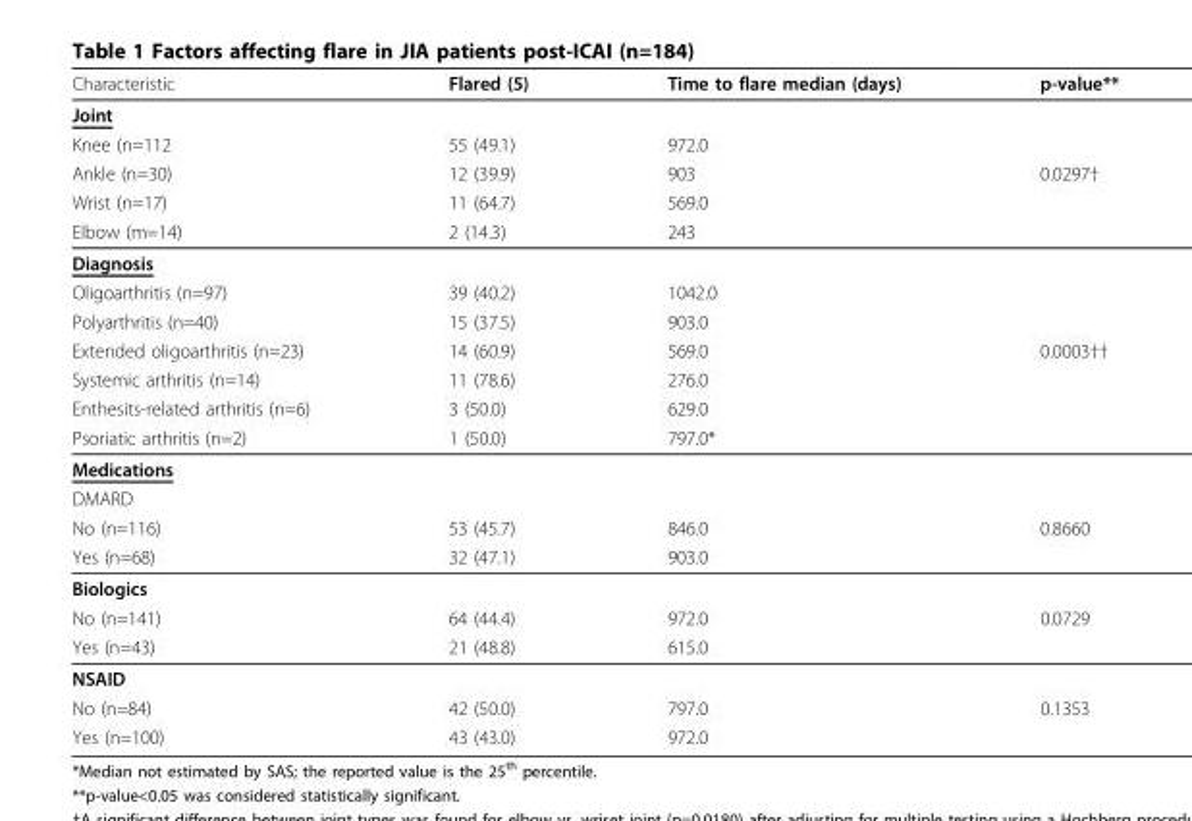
<table><thead><tr><td>Characteristic</td><td>Flared (5)</td><td>Time to flare median (days)</td><td>p-value**</td></tr></thead><tbody><tr><td colspan="4">Joint</td></tr><tr><td>Knee (n=112</td><td>55 (49.1)</td><td>972.0</td><td></td></tr><tr><td>Ankle (n=30)</td><td>12 (39.9)</td><td>903</td><td>0.0297†</td></tr><tr><td>Wrist (n=17)</td><td>11 (64.7)</td><td>569.0</td><td></td></tr><tr><td>Elbow (m=14)</td><td>2 (14.3)</td><td>243</td><td></td></tr><tr><td colspan="4">Diagnosis</td></tr><tr><td>Oligoarthritis (n=97)</td><td>39 (40.2)</td><td>1042.0</td><td></td></tr><tr><td>Polyarthritis (n=40)</td><td>15 (37.5)</td><td>903.0</td><td></td></tr><tr><td>Extended oligoarthritis (n=23)</td><td>14 (60.9)</td><td>569.0</td><td>0.0003††</td></tr><tr><td>Systemic arthritis (n=14)</td><td>11 (78.6)</td><td>276.0</td><td></td></tr><tr><td>Enthesits-related arthritis (n=6)</td><td>3 (50.0)</td><td>629.0</td><td></td></tr><tr><td>Psoriatic arthritis (n=2)</td><td>1 (50.0)</td><td>797.0*</td><td></td></tr><tr><td colspan="4">Medications</td></tr><tr><td colspan="4">DMARD</td></tr><tr><td>No (n=116)</td><td>53 (45.7)</td><td>846.0</td><td>0.8660</td></tr><tr><td>Yes (n=68)</td><td>32 (47.1)</td><td>903.0</td><td></td></tr><tr><td colspan="4">Biologics</td></tr><tr><td>No (n=141)</td><td>64 (44.4)</td><td>972.0</td><td>0.0729</td></tr><tr><td>Yes (n=43)</td><td>21 (48.8)</td><td>615.0</td><td></td></tr><tr><td colspan="4">NSAID</td></tr><tr><td>No (n=84)</td><td>42 (50.0)</td><td>797.0</td><td>0.1353</td></tr><tr><td>Yes (n=100)</td><td>43 (43.0)</td><td>972.0</td><td></td></tr></tbody></table>